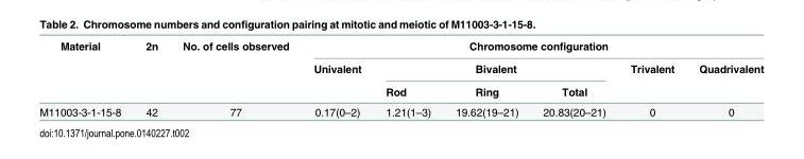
<table><thead><tr><td rowspan="3">Material</td><td rowspan="3">2n</td><td rowspan="3">No. of cells observed</td><td colspan="6">Chromosome configuration</td></tr><tr><td rowspan="2">Univalent</td><td colspan="3">Bivalent</td><td rowspan="2">Trivalent</td><td rowspan="2">Quadrivalent</td></tr><tr><td>Rod</td><td>Ring</td><td>Total</td></tr></thead><tbody><tr><td>M11003-3-1-15-8</td><td>42</td><td>77</td><td>0.17(0–2)</td><td>1.21(1–3)</td><td>19.62(19–21)</td><td>20.83(20–21)</td><td>0</td><td>0</td></tr></tbody></table>